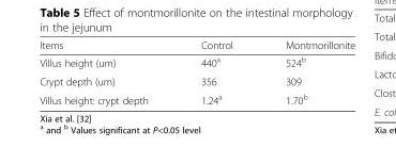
<table><thead><tr><td>Items</td><td>Control</td><td>Montmorillonite</td></tr></thead><tbody><tr><td>Villus height (um)</td><td>440<sup>a</sup></td><td>524<sup>b</sup></td></tr><tr><td>Crypt depth (um)</td><td>356</td><td>309</td></tr><tr><td>Villus height: crypt depth</td><td>1.24<sup>a</sup></td><td>1.70<sup>b</sup></td></tr></tbody></table>